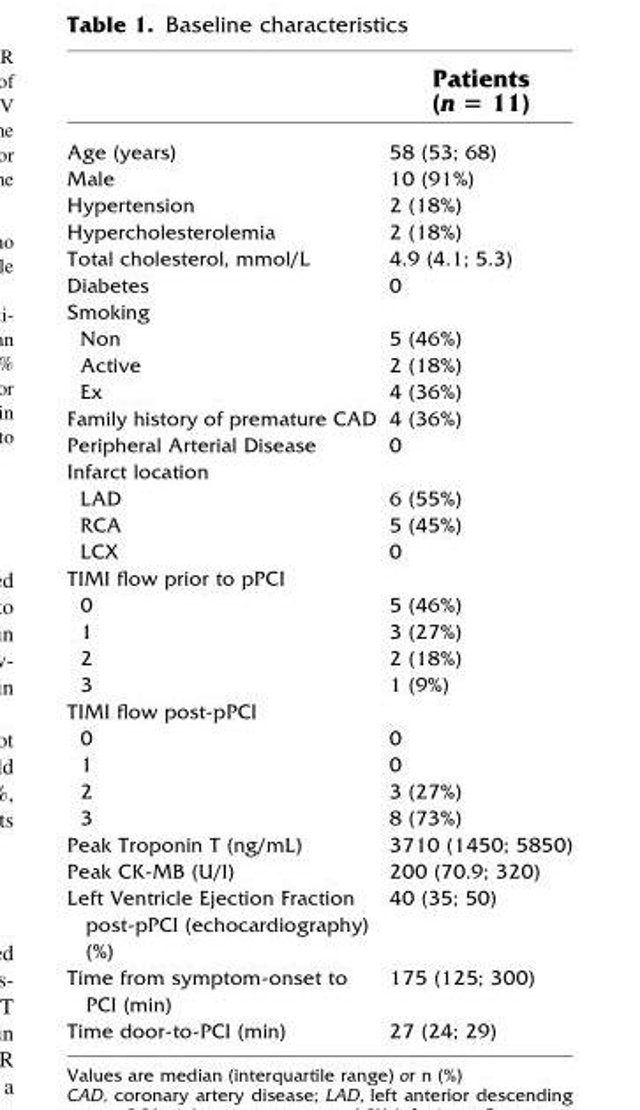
<table><thead><tr><td></td><td>Patients (n = 11)</td></tr></thead><tbody><tr><td>Age (years)</td><td>58 (53; 68)</td></tr><tr><td>Male</td><td>10 (91%)</td></tr><tr><td>Hypertension</td><td>2 (18%)</td></tr><tr><td>Hypercholesterolemia</td><td>2 (18%)</td></tr><tr><td>Total cholesterol, mmol/L</td><td>4.9 (4.1; 5.3)</td></tr><tr><td>Diabetes</td><td>0</td></tr><tr><td colspan="2">Smoking</td></tr><tr><td>Non</td><td>5 (46%)</td></tr><tr><td>Active</td><td>2 (18%)</td></tr><tr><td>Ex</td><td>4 (36%)</td></tr><tr><td>Family history of premature CAD</td><td>4 (36%)</td></tr><tr><td>Peripheral Arterial Disease</td><td>0</td></tr><tr><td colspan="2">Infarct location</td></tr><tr><td>LAD</td><td>6 (55%)</td></tr><tr><td>RCA</td><td>5 (45%)</td></tr><tr><td>LCX</td><td>0</td></tr><tr><td colspan="2">TIMI flow prior to pPCI</td></tr><tr><td>0</td><td>5 (46%)</td></tr><tr><td>1</td><td>3 (27%)</td></tr><tr><td>2</td><td>2 (18%)</td></tr><tr><td>3</td><td>1 (9%)</td></tr><tr><td colspan="2">TIMI flow post-pPCI</td></tr><tr><td>0</td><td>0</td></tr><tr><td>1</td><td>0</td></tr><tr><td>2</td><td>3 (27%)</td></tr><tr><td>3</td><td>8 (73%)</td></tr><tr><td>Peak Troponin T (ng/mL)</td><td>3710 (1450; 5850)</td></tr><tr><td>Peak CK-MB (U/I)</td><td>200 (70.9; 320)</td></tr><tr><td>Left Ventricle Ejection Fraction post-pPCI (echocardiography) (%)</td><td>40 (35; 50)</td></tr><tr><td>Time from symptom-onset to PCI (min)</td><td>175 (125; 300)</td></tr><tr><td>Time door-to-PCI (min)</td><td>27 (24; 29)</td></tr></tbody></table>